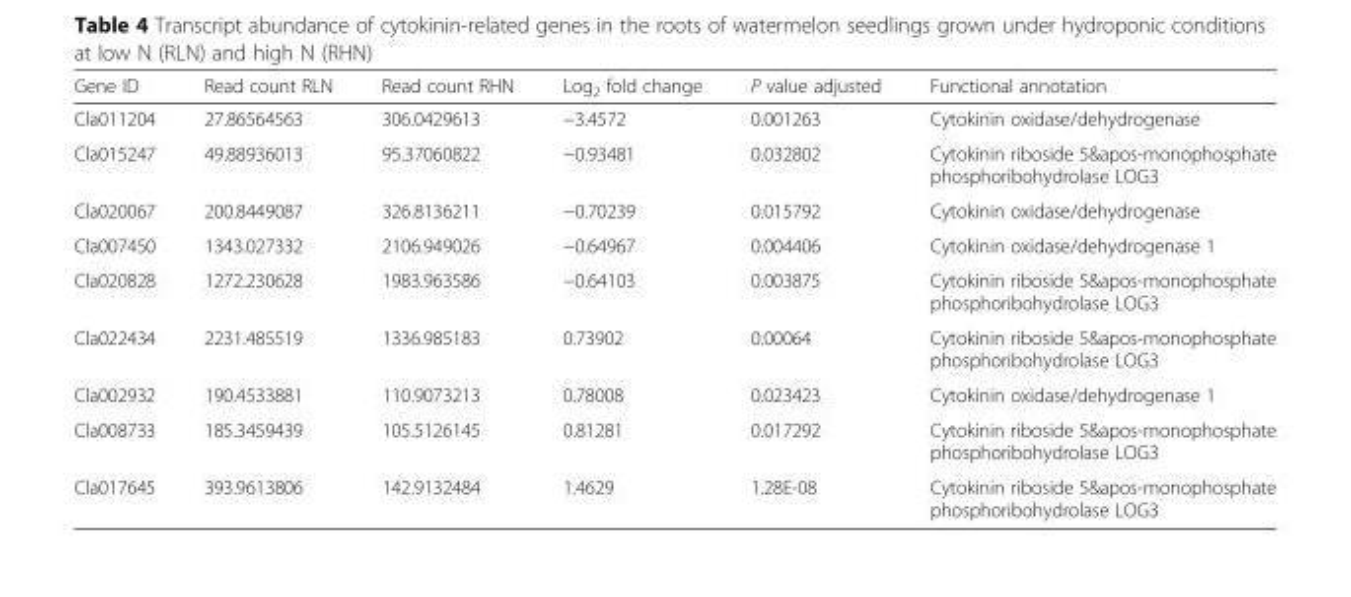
<table><thead><tr><td>Gene ID</td><td>Read count RLN</td><td>Read count RHN</td><td>Log<sub>2</sub> fold change</td><td>P value adjusted</td><td>Functional annotation</td></tr></thead><tbody><tr><td>Cla011204</td><td>27.86564563</td><td>306.0429613</td><td>−3.4572</td><td>0.001263</td><td>Cytokinin oxidase/dehydrogenase</td></tr><tr><td>Cla015247</td><td>49.88936013</td><td>95.37060822</td><td>−0.93481</td><td>0.032802</td><td>Cytokinin riboside 5&amp;apos-monophosphate phosphoribohydrolase LOG3</td></tr><tr><td>Cla020067</td><td>200.8449087</td><td>326.8136211</td><td>−0.70239</td><td>0.015792</td><td>Cytokinin oxidase/dehydrogenase</td></tr><tr><td>Cla007450</td><td>1343.027332</td><td>2106.949026</td><td>−0.64967</td><td>0.004406</td><td>Cytokinin oxidase/dehydrogenase 1</td></tr><tr><td>Cla020828</td><td>1272.230628</td><td>1983.963586</td><td>−0.64103</td><td>0.003875</td><td>Cytokinin riboside 5&amp;apos-monophosphate phosphoribohydrolase LOG3</td></tr><tr><td>Cla022434</td><td>2231.485519</td><td>1336.985183</td><td>0.73902</td><td>0.00064</td><td>Cytokinin riboside 5&amp;apos-monophosphate phosphoribohydrolase LOG3</td></tr><tr><td>Cla002932</td><td>190.4533881</td><td>110.9073213</td><td>0.78008</td><td>0.023423</td><td>Cytokinin oxidase/dehydrogenase 1</td></tr><tr><td>Cla008733</td><td>185.3459439</td><td>105.5126145</td><td>0.81281</td><td>0.017292</td><td>Cytokinin riboside 5&amp;apos-monophosphate phosphoribohydrolase LOG3</td></tr><tr><td>Cla017645</td><td>393.9613806</td><td>142.9132484</td><td>1.4629</td><td>1.28E-08</td><td>Cytokinin riboside 5&amp;apos-monophosphate phosphoribohydrolase LOG3</td></tr></tbody></table>